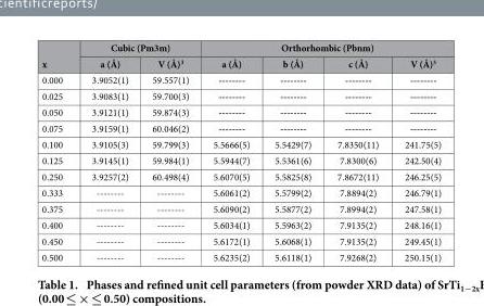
<table><thead><tr><td rowspan="2">x</td><td colspan="2">Cubic (Pm3m)</td><td colspan="4">Orthorhombic (Pbnm)</td></tr><tr><td>a (Å)</td><td>V (Å)<sup>3</sup></td><td>a (Å)</td><td>b (Å)</td><td>c (Å)</td><td>V (Å)<sup>3</sup></td></tr></thead><tbody><tr><td>0.000</td><td>3.9052(1)</td><td>59.557(1)</td><td>--------</td><td>--------</td><td>--------</td><td>--------</td></tr><tr><td>0.025</td><td>3.9083(1)</td><td>59.700(3)</td><td>--------</td><td>--------</td><td>--------</td><td>--------</td></tr><tr><td>0.050</td><td>3.9121(1)</td><td>59.874(3)</td><td>--------</td><td>--------</td><td>--------</td><td>--------</td></tr><tr><td>0.075</td><td>3.9159(1)</td><td>60.046(2)</td><td>--------</td><td>--------</td><td>--------</td><td>--------</td></tr><tr><td>0.100</td><td>3.9105(3)</td><td>59.799(3)</td><td>5.5666(5)</td><td>5.5429(7)</td><td>7.8350(11)</td><td>241.75(5)</td></tr><tr><td>0.125</td><td>3.9145(1)</td><td>59.984(1)</td><td>5.5944(7)</td><td>5.5361(6)</td><td>7.8300(6)</td><td>242.50(4)</td></tr><tr><td>0.250</td><td>3.9257(2)</td><td>60.498(4)</td><td>5.6070(5)</td><td>5.5825(8)</td><td>7.8672(11)</td><td>246.25(5)</td></tr><tr><td>0.333</td><td>--------</td><td>--------</td><td>5.6061(2)</td><td>5.5799(2)</td><td>7.8894(2)</td><td>246.79(1)</td></tr><tr><td>0.375</td><td>--------</td><td>--------</td><td>5.6090(2)</td><td>5.5877(2)</td><td>7.8994(2)</td><td>247.58(1)</td></tr><tr><td>0.400</td><td>--------</td><td>--------</td><td>5.6034(1)</td><td>5.5963(2)</td><td>7.9135(2)</td><td>248.16(1)</td></tr><tr><td>0.450</td><td>--------</td><td>--------</td><td>5.6172(1)</td><td>5.6068(1)</td><td>7.9135(2)</td><td>249.45(1)</td></tr><tr><td>0.500</td><td>--------</td><td>--------</td><td>5.6235(2)</td><td>5.6118(1)</td><td>7.9268(2)</td><td>250.15(1)</td></tr></tbody></table>